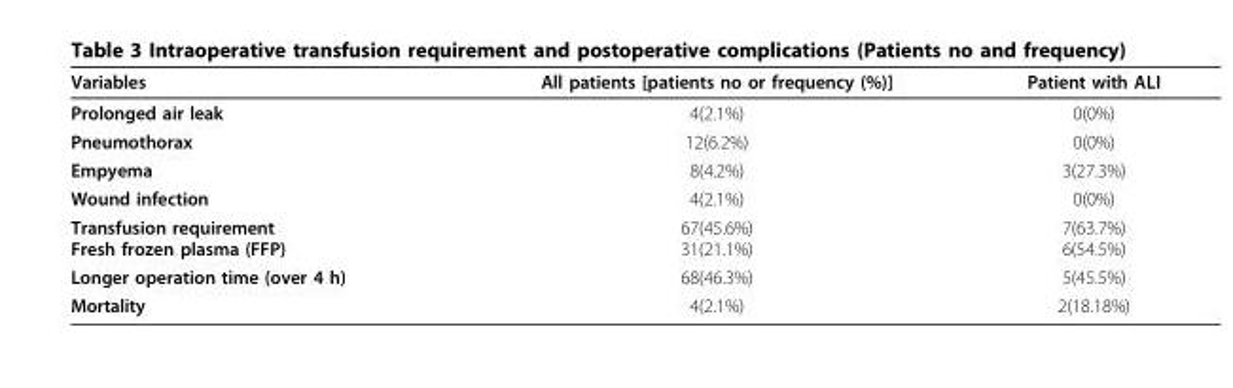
<table><thead><tr><td>Variables</td><td>All patients [patients no or frequency (%)]</td><td>Patient with ALI</td></tr></thead><tbody><tr><td>Prolonged air leak</td><td>4(2.1%)</td><td>0(0%)</td></tr><tr><td>Pneumothorax</td><td>12(6.2%)</td><td>0(0%)</td></tr><tr><td>Empyema</td><td>8(4.2%)</td><td>3(27.3%)</td></tr><tr><td>Wound infection</td><td>4(2.1%)</td><td>0(0%)</td></tr><tr><td>Transfusion requirement Fresh frozen plasma (FFP)</td><td>67(45.6%) 31(21.1%)</td><td>7(63.7%) 6(54.5%)</td></tr><tr><td>Longer operation time (over 4 h)</td><td>68(46.3%)</td><td>5(45.5%)</td></tr><tr><td>Mortality</td><td>4(2.1%)</td><td>2(18.18%)</td></tr></tbody></table>